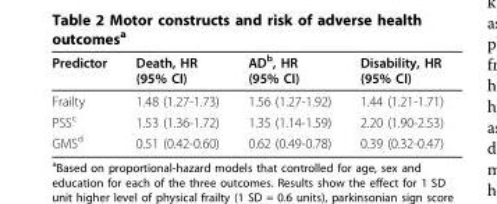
<table><thead><tr><td>Predictor</td><td>Death, HR (95% CI)</td><td>AD<sup>b</sup>, HR (95% CI)</td><td>Disability, HR (95% CI)</td></tr></thead><tbody><tr><td>Frailty</td><td>1.48 (1.27-1.73)</td><td>1.56 (1.27-1.92)</td><td>1.44 (1.21-1.71)</td></tr><tr><td>PSS<sup>c</sup></td><td>1.53 (1.36-1.72)</td><td>1.35 (1.14-1.59)</td><td>2.20 (1.90-2.53)</td></tr><tr><td>GMS<sup>d</sup></td><td>0.51 (0.42-0.60)</td><td>0.62 (0.49-0.78)</td><td>0.39 (0.32-0.47)</td></tr></tbody></table>